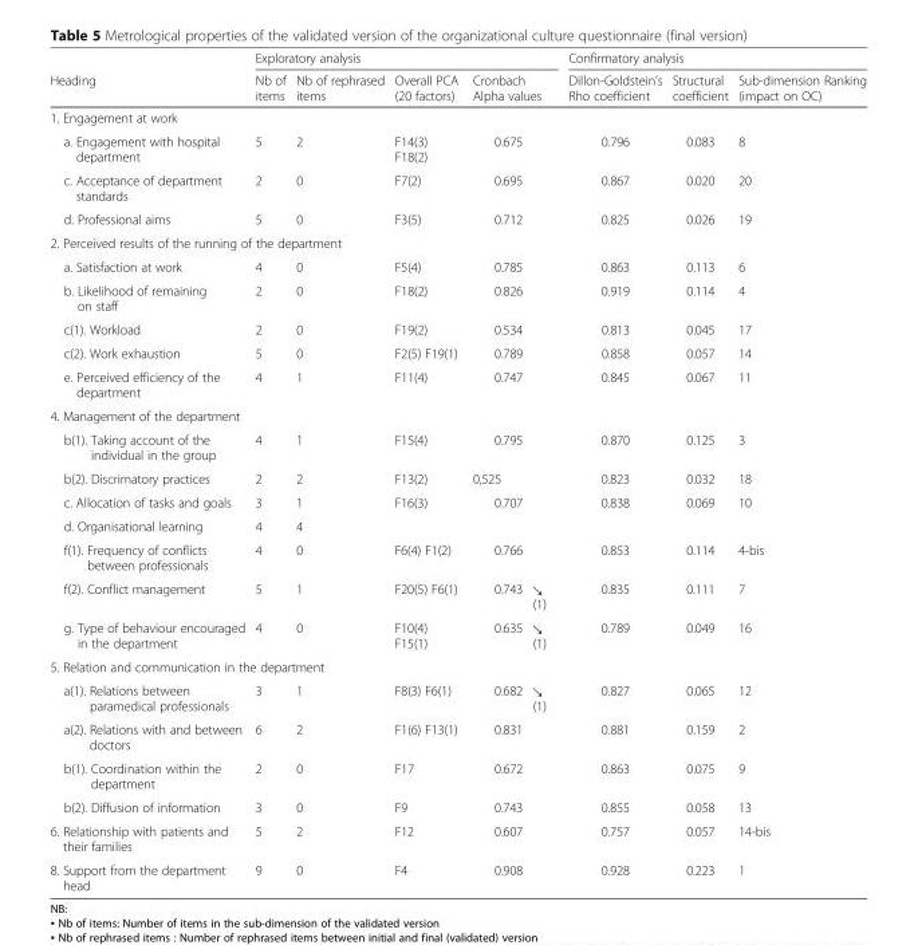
<table><thead><tr><td rowspan="2">Heading</td><td colspan="5">Exploratory analysis</td><td colspan="3">Confirmatory analysis</td></tr><tr><td>Nb of items</td><td>Nb of rephrased items</td><td>Overall PCA (20 factors)</td><td colspan="2">Cronbach Alpha values</td><td>Dillon-Goldstein’s Rho coefficient</td><td>Structural coefficient</td><td>Sub-dimension Ranking (impact on OC)</td></tr><tr><td colspan="9">1. Engagement at work</td></tr><tr><td>a. Engagement with hospital department</td><td>5</td><td>2</td><td>F14(3) F18(2)</td><td>0.675</td><td></td><td>0.796</td><td>0.083</td><td>8</td></tr></thead><tbody><tr><td>c. Acceptance of department standards</td><td>2</td><td>0</td><td>F7(2)</td><td>0.695</td><td></td><td>0.867</td><td>0.020</td><td>20</td></tr><tr><td>d. Professional aims</td><td>5</td><td>0</td><td>F3(5)</td><td>0.712</td><td></td><td>0.825</td><td>0.026</td><td>19</td></tr><tr><td colspan="9">2. Perceived results of the running of the department</td></tr><tr><td>a. Satisfaction at work</td><td>4</td><td>0</td><td>F5(4)</td><td>0.785</td><td></td><td>0.863</td><td>0.113</td><td>6</td></tr><tr><td>b. Likelihood of remaining on staff</td><td>2</td><td>0</td><td>F18(2)</td><td>0.826</td><td></td><td>0.919</td><td>0.114</td><td>4</td></tr><tr><td>c(1). Workload</td><td>2</td><td>0</td><td>F19(2)</td><td>0.534</td><td></td><td>0.813</td><td>0.045</td><td>17</td></tr><tr><td>c(2). Work exhaustion</td><td>5</td><td>0</td><td>F2(5) F19(1)</td><td>0.789</td><td></td><td>0.858</td><td>0.057</td><td>14</td></tr><tr><td>e. Perceived efficiency of the department</td><td>4</td><td>1</td><td>F11(4)</td><td>0.747</td><td></td><td>0.845</td><td>0.067</td><td>11</td></tr><tr><td colspan="9">4. Management of the department</td></tr><tr><td>b(1). Taking account of the individual in the group</td><td>4</td><td>1</td><td>F15(4)</td><td>0.795</td><td></td><td>0.870</td><td>0.125</td><td>3</td></tr><tr><td>b(2). Discrimatory practices</td><td>2</td><td>2</td><td>F13(2)</td><td>0,525</td><td></td><td>0.823</td><td>0.032</td><td>18</td></tr><tr><td>c. Allocation of tasks and goals</td><td>3</td><td>1</td><td>F16(3)</td><td>0.707</td><td></td><td>0.838</td><td>0.069</td><td>10</td></tr><tr><td>d. Organisational learning</td><td>4</td><td>4</td><td></td><td></td><td></td><td></td><td></td><td></td></tr><tr><td>f(1). Frequency of conflicts between professionals</td><td>4</td><td>0</td><td>F6(4) F1(2)</td><td>0.766</td><td></td><td>0.853</td><td>0.114</td><td>4-bis</td></tr><tr><td>f(2). Conflict management</td><td>5</td><td>1</td><td>F20(5) F6(1)</td><td>0.743</td><td>↘ (1)</td><td>0.835</td><td>0.111</td><td>7</td></tr><tr><td>g. Type of behaviour encouraged in the department</td><td>4</td><td>0</td><td>F10(4) F15(1)</td><td>0.635</td><td>↘ (1)</td><td>0.789</td><td>0.049</td><td>16</td></tr><tr><td colspan="9">5. Relation and communication in the department</td></tr><tr><td>a(1). Relations between paramedical professionals</td><td>3</td><td>1</td><td>F8(3) F6(1)</td><td>0.682</td><td>↘ (1)</td><td>0.827</td><td>0.065</td><td>12</td></tr><tr><td>a(2). Relations with and between doctors</td><td>6</td><td>2</td><td>F1(6) F13(1)</td><td>0.831</td><td></td><td>0.881</td><td>0.159</td><td>2</td></tr><tr><td>b(1). Coordination within the department</td><td>2</td><td>0</td><td>F17</td><td>0.672</td><td></td><td>0.863</td><td>0.075</td><td>9</td></tr><tr><td>b(2). Diffusion of information</td><td>3</td><td>0</td><td>F9</td><td>0.743</td><td></td><td>0.855</td><td>0.058</td><td>13</td></tr><tr><td>6. Relationship with patients and their families</td><td>5</td><td>2</td><td>F12</td><td>0.607</td><td></td><td>0.757</td><td>0.057</td><td>14-bis</td></tr><tr><td>8. Support from the department head</td><td>9</td><td>0</td><td>F4</td><td>0.908</td><td></td><td>0.928</td><td>0.223</td><td>1</td></tr></tbody></table>